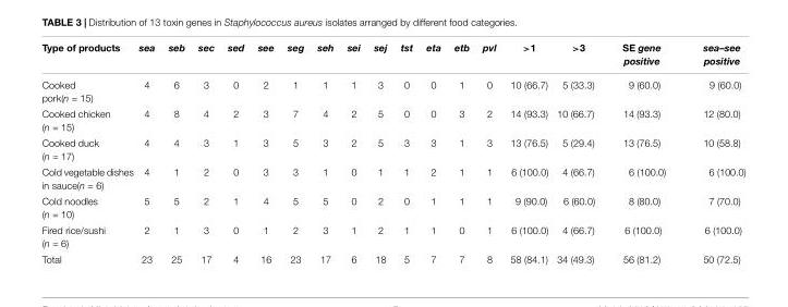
<table><thead><tr><td>Type of products</td><td>sea</td><td>seb</td><td>sec</td><td>sed</td><td>see</td><td>seg</td><td>seh</td><td>sei</td><td>sej</td><td>tst</td><td>eta</td><td>etb</td><td>pvl</td><td>&gt;1</td><td>&gt;3</td><td>SE gene positive</td><td>sea–see positive</td></tr></thead><tbody><tr><td>Cooked pork(n = 15)</td><td>4</td><td>6</td><td>3</td><td>0</td><td>2</td><td>1</td><td>1</td><td>1</td><td>3</td><td>0</td><td>0</td><td>1</td><td>0</td><td>10 (66.7)</td><td>5 (33.3)</td><td>9 (60.0)</td><td>9 (60.0)</td></tr><tr><td>Cooked chicken (n = 15)</td><td>4</td><td>8</td><td>4</td><td>2</td><td>3</td><td>7</td><td>4</td><td>2</td><td>5</td><td>0</td><td>0</td><td>3</td><td>2</td><td>14 (93.3)</td><td>10 (66.7)</td><td>14 (93.3)</td><td>12 (80.0)</td></tr><tr><td>Cooked duck (n = 17)</td><td>4</td><td>4</td><td>3</td><td>1</td><td>3</td><td>5</td><td>3</td><td>2</td><td>5</td><td>3</td><td>3</td><td>1</td><td>3</td><td>13 (76.5)</td><td>5 (29.4)</td><td>13 (76.5)</td><td>10 (58.8)</td></tr><tr><td>Cold vegetable dishes in sauce(n = 6)</td><td>4</td><td>1</td><td>2</td><td>0</td><td>3</td><td>3</td><td>1</td><td>0</td><td>1</td><td>1</td><td>2</td><td>1</td><td>1</td><td>6 (100.0)</td><td>4 (66.7)</td><td>6 (100.0)</td><td>6 (100.0)</td></tr><tr><td>Cold noodles (n = 10)</td><td>5</td><td>5</td><td>2</td><td>1</td><td>4</td><td>5</td><td>5</td><td>0</td><td>2</td><td>0</td><td>1</td><td>1</td><td>1</td><td>9 (90.0)</td><td>6 (60.0)</td><td>8 (80.0)</td><td>7 (70.0)</td></tr><tr><td>Fired rice/sushi (n = 6)</td><td>2</td><td>1</td><td>3</td><td>0</td><td>1</td><td>2</td><td>3</td><td>1</td><td>2</td><td>1</td><td>1</td><td>0</td><td>1</td><td>6 (100.0)</td><td>4 (66.7)</td><td>6 (100.0)</td><td>6 (100.0)</td></tr><tr><td>Total</td><td>23</td><td>25</td><td>17</td><td>4</td><td>16</td><td>23</td><td>17</td><td>6</td><td>18</td><td>5</td><td>7</td><td>7</td><td>8</td><td>58 (84.1)</td><td>34 (49.3)</td><td>56 (81.2)</td><td>50 (72.5)</td></tr></tbody></table>